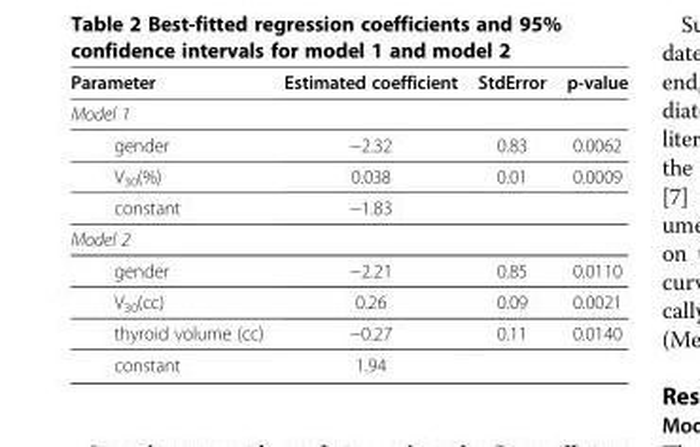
<table><thead><tr><td>Parameter</td><td>Estimated coefficient</td><td>StdError</td><td>p-value</td></tr></thead><tbody><tr><td colspan="4">Model 1</td></tr><tr><td>gender</td><td>−2.32</td><td>0.83</td><td>0.0062</td></tr><tr><td>V<sub>30</sub>(%)</td><td>0.038</td><td>0.01</td><td>0.0009</td></tr><tr><td>constant</td><td>−1.83</td><td></td><td></td></tr><tr><td colspan="4">Model 2</td></tr><tr><td>gender</td><td>−2.21</td><td>0.85</td><td>0.0110</td></tr><tr><td>V<sub>30</sub>(cc)</td><td>0.26</td><td>0.09</td><td>0.0021</td></tr><tr><td>thyroid volume (cc)</td><td>−0.27</td><td>0.11</td><td>0.0140</td></tr><tr><td>constant</td><td>1.94</td><td></td><td></td></tr></tbody></table>